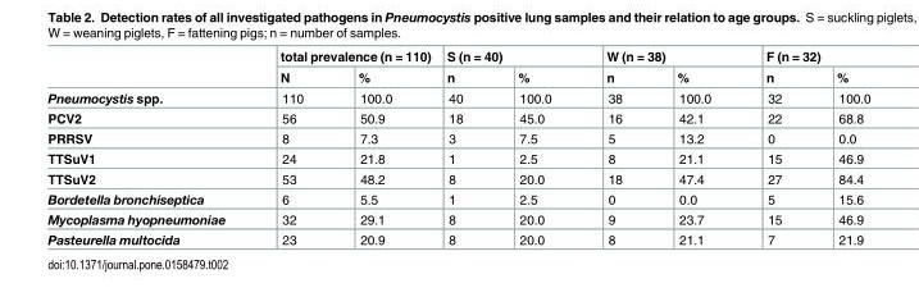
<table><thead><tr><td rowspan="2"></td><td colspan="2">total prevalence (n = 110)</td><td colspan="2">S (n = 40)</td><td colspan="2">W (n = 38)</td><td colspan="2">F (n = 32)</td></tr><tr><td>N</td><td>%</td><td>n</td><td>%</td><td>n</td><td>%</td><td>n</td><td>%</td></tr></thead><tbody><tr><td>Pneumocystis spp.</td><td>110</td><td>100.0</td><td>40</td><td>100.0</td><td>38</td><td>100.0</td><td>32</td><td>100.0</td></tr><tr><td>PCV2</td><td>56</td><td>50.9</td><td>18</td><td>45.0</td><td>16</td><td>42.1</td><td>22</td><td>68.8</td></tr><tr><td>PRRSV</td><td>8</td><td>7.3</td><td>3</td><td>7.5</td><td>5</td><td>13.2</td><td>0</td><td>0.0</td></tr><tr><td>TTSuV1</td><td>24</td><td>21.8</td><td>1</td><td>2.5</td><td>8</td><td>21.1</td><td>15</td><td>46.9</td></tr><tr><td>TTSuV2</td><td>53</td><td>48.2</td><td>8</td><td>20.0</td><td>18</td><td>47.4</td><td>27</td><td>84.4</td></tr><tr><td>Bordetella bronchiseptica</td><td>6</td><td>5.5</td><td>1</td><td>2.5</td><td>0</td><td>0.0</td><td>5</td><td>15.6</td></tr><tr><td>Mycoplasma hyopneumoniae</td><td>32</td><td>29.1</td><td>8</td><td>20.0</td><td>9</td><td>23.7</td><td>15</td><td>46.9</td></tr><tr><td>Pasteurella multocida</td><td>23</td><td>20.9</td><td>8</td><td>20.0</td><td>8</td><td>21.1</td><td>7</td><td>21.9</td></tr></tbody></table>